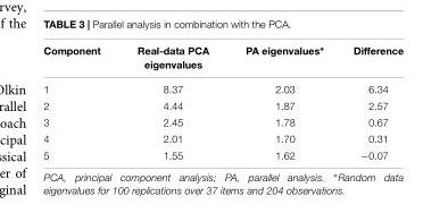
<table><thead><tr><td>Component</td><td>Real-data PCA eigenvalues</td><td>PA eigenvalues∗</td><td>Difference</td></tr></thead><tbody><tr><td>1</td><td>8.37</td><td>2.03</td><td>6.34</td></tr><tr><td>2</td><td>4.44</td><td>1.87</td><td>2.57</td></tr><tr><td>3</td><td>2.45</td><td>1.78</td><td>0.67</td></tr><tr><td>4</td><td>2.01</td><td>1.70</td><td>0.31</td></tr><tr><td>5</td><td>1.55</td><td>1.62</td><td>−0.07</td></tr></tbody></table>